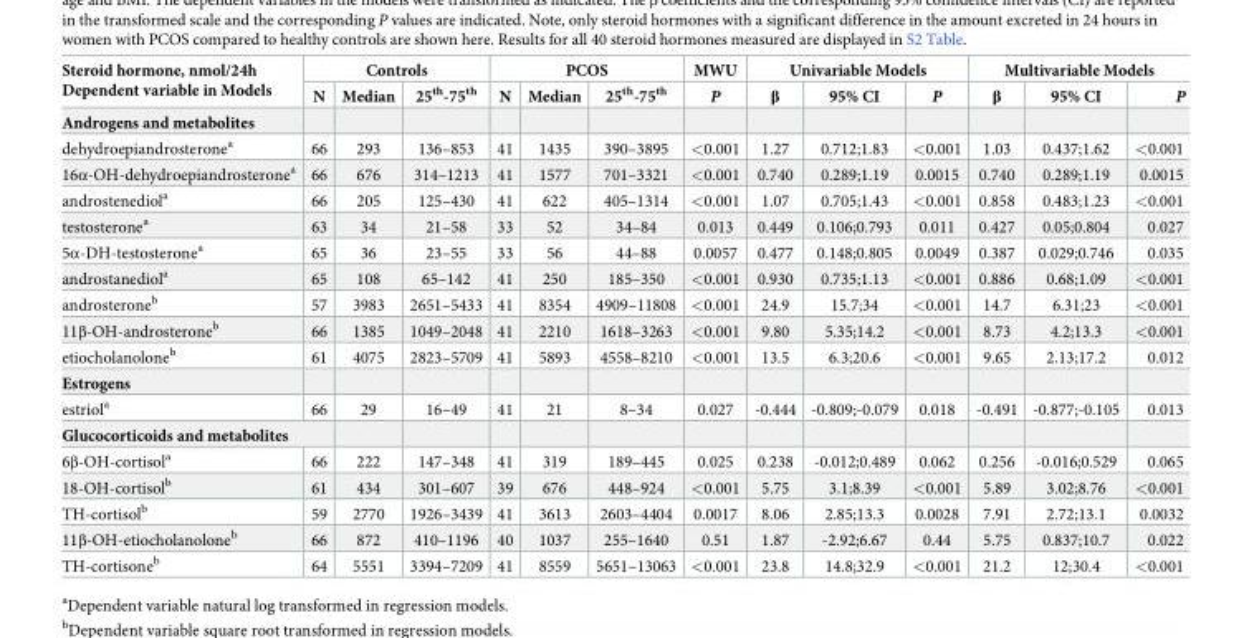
<table><thead><tr><td rowspan="2">Steroid hormone, nmol/24h Dependent variable in Models</td><td colspan="3">Controls</td><td colspan="3">PCOS</td><td rowspan="2">MWU P</td><td colspan="3">Univariable Models</td><td colspan="3">Multivariable Models</td></tr><tr><td>N</td><td>Median</td><td>25<sup>th</sup>-75<sup>th</sup></td><td>N</td><td>Median</td><td>25<sup>th</sup>-75<sup>th</sup></td><td>β</td><td>95% CI</td><td>P</td><td>β</td><td>95% CI</td><td>P</td></tr></thead><tbody><tr><td colspan="14">Androgens and metabolites</td></tr><tr><td>dehydroepiandrosterone<sup>a</sup></td><td>66</td><td>293</td><td>136–853</td><td>41</td><td>1435</td><td>390–3895</td><td>&lt;0.001</td><td>1.27</td><td>0.712;1.83</td><td>&lt;0.001</td><td>1.03</td><td>0.437;1.62</td><td>&lt;0.001</td></tr><tr><td>16α-OH-dehydroepiandrosterone<sup>a</sup></td><td>66</td><td>676</td><td>314–1213</td><td>41</td><td>1577</td><td>701–3321</td><td>&lt;0.001</td><td>0.740</td><td>0.289;1.19</td><td>0.0015</td><td>0.740</td><td>0.289;1.19</td><td>0.0015</td></tr><tr><td>androstenediol<sup>a</sup></td><td>66</td><td>205</td><td>125–430</td><td>41</td><td>622</td><td>405–1314</td><td>&lt;0.001</td><td>1.07</td><td>0.705;1.43</td><td>&lt;0.001</td><td>0.858</td><td>0.483;1.23</td><td>&lt;0.001</td></tr><tr><td>testosterone<sup>a</sup></td><td>63</td><td>34</td><td>21–58</td><td>33</td><td>52</td><td>34–84</td><td>0.013</td><td>0.449</td><td>0.106;0.793</td><td>0.011</td><td>0.427</td><td>0.05;0.804</td><td>0.027</td></tr><tr><td>5α-DH-testosterone<sup>a</sup></td><td>65</td><td>36</td><td>23–55</td><td>33</td><td>56</td><td>44–88</td><td>0.0057</td><td>0.477</td><td>0.148;0.805</td><td>0.0049</td><td>0.387</td><td>0.029;0.746</td><td>0.035</td></tr><tr><td>androstanediol<sup>a</sup></td><td>65</td><td>108</td><td>65–142</td><td>41</td><td>250</td><td>185–350</td><td>&lt;0.001</td><td>0.930</td><td>0.735;1.13</td><td>&lt;0.001</td><td>0.886</td><td>0.68;1.09</td><td>&lt;0.001</td></tr><tr><td>androsterone<sup>b</sup></td><td>57</td><td>3983</td><td>2651–5433</td><td>41</td><td>8354</td><td>4909–11808</td><td>&lt;0.001</td><td>24.9</td><td>15.7;34</td><td>&lt;0.001</td><td>14.7</td><td>6.31;23</td><td>&lt;0.001</td></tr><tr><td>11β-OH-androsterone<sup>b</sup></td><td>66</td><td>1385</td><td>1049–2048</td><td>41</td><td>2210</td><td>1618–3263</td><td>&lt;0.001</td><td>9.80</td><td>5.35;14.2</td><td>&lt;0.001</td><td>8.73</td><td>4.2;13.3</td><td>&lt;0.001</td></tr><tr><td>etiocholanolone<sup>b</sup></td><td>61</td><td>4075</td><td>2823–5709</td><td>41</td><td>5893</td><td>4558–8210</td><td>&lt;0.001</td><td>13.5</td><td>6.3;20.6</td><td>&lt;0.001</td><td>9.65</td><td>2.13;17.2</td><td>0.012</td></tr><tr><td colspan="14">Estrogens</td></tr><tr><td>estriol<sup>a</sup></td><td>66</td><td>29</td><td>16–49</td><td>41</td><td>21</td><td>8–34</td><td>0.027</td><td>-0.444</td><td>-0.809;-0.079</td><td>0.018</td><td>-0.491</td><td>-0.877;-0.105</td><td>0.013</td></tr><tr><td colspan="14">Glucocorticoids and metabolites</td></tr><tr><td>6β-OH-cortisol<sup>a</sup></td><td>66</td><td>222</td><td>147–348</td><td>41</td><td>319</td><td>189–445</td><td>0.025</td><td>0.238</td><td>-0.012;0.489</td><td>0.062</td><td>0.256</td><td>-0.016;0.529</td><td>0.065</td></tr><tr><td>18-OH-cortisol<sup>b</sup></td><td>61</td><td>434</td><td>301–607</td><td>39</td><td>676</td><td>448–924</td><td>&lt;0.001</td><td>5.75</td><td>3.1;8.39</td><td>&lt;0.001</td><td>5.89</td><td>3.02;8.76</td><td>&lt;0.001</td></tr><tr><td>TH-cortisol<sup>b</sup></td><td>59</td><td>2770</td><td>1926–3439</td><td>41</td><td>3613</td><td>2603–4404</td><td>0.0017</td><td>8.06</td><td>2.85;13.3</td><td>0.0028</td><td>7.91</td><td>2.72;13.1</td><td>0.0032</td></tr><tr><td>11β-OH-etiocholanolone<sup>b</sup></td><td>66</td><td>872</td><td>410–1196</td><td>40</td><td>1037</td><td>255–1640</td><td>0.51</td><td>1.87</td><td>-2.92;6.67</td><td>0.44</td><td>5.75</td><td>0.837;10.7</td><td>0.022</td></tr><tr><td>TH-cortisone<sup>b</sup></td><td>64</td><td>5551</td><td>3394–7209</td><td>41</td><td>8559</td><td>5651–13063</td><td>&lt;0.001</td><td>23.8</td><td>14.8;32.9</td><td>&lt;0.001</td><td>21.2</td><td>12;30.4</td><td>&lt;0.001</td></tr></tbody></table>